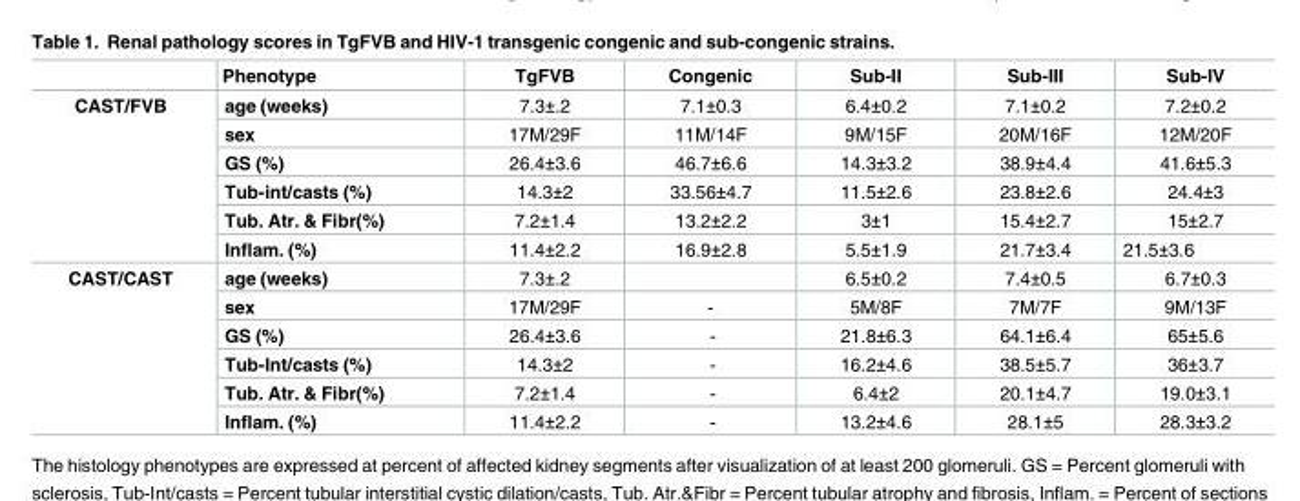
<table><thead><tr><td></td><td>Phenotype</td><td>TgFVB</td><td>Congenic</td><td>Sub-II</td><td>Sub-III</td><td>Sub-IV</td></tr></thead><tbody><tr><td rowspan="6">CAST/FVB</td><td>age (weeks)</td><td>7.3±.2</td><td>7.1±0.3</td><td>6.4±0.2</td><td>7.1±0.2</td><td>7.2±0.2</td></tr><tr><td>sex</td><td>17M/29F</td><td>11M/14F</td><td>9M/15F</td><td>20M/16F</td><td>12M/20F</td></tr><tr><td>GS (%)</td><td>26.4±3.6</td><td>46.7±6.6</td><td>14.3±3.2</td><td>38.9±4.4</td><td>41.6±5.3</td></tr><tr><td>Tub-int/casts (%)</td><td>14.3±2</td><td>33.56±4.7</td><td>11.5±2.6</td><td>23.8±2.6</td><td>24.4±3</td></tr><tr><td>Tub. Atr. &amp; Fibr(%)</td><td>7.2±1.4</td><td>13.2±2.2</td><td>3±1</td><td>15.4±2.7</td><td>15±2.7</td></tr><tr><td>Inflam. (%)</td><td>11.4±2.2</td><td>16.9±2.8</td><td>5.5±1.9</td><td>21.7±3.4</td><td>21.5±3.6</td></tr><tr><td rowspan="6">CAST/CAST</td><td>age (weeks)</td><td>7.3±.2</td><td></td><td>6.5±0.2</td><td>7.4±0.5</td><td>6.7±0.3</td></tr><tr><td>sex</td><td>17M/29F</td><td>-</td><td>5M/8F</td><td>7M/7F</td><td>9M/13F</td></tr><tr><td>GS (%)</td><td>26.4±3.6</td><td>-</td><td>21.8±6.3</td><td>64.1±6.4</td><td>65±5.6</td></tr><tr><td>Tub-Int/casts (%)</td><td>14.3±2</td><td>-</td><td>16.2±4.6</td><td>38.5±5.7</td><td>36±3.7</td></tr><tr><td>Tub. Atr. &amp; Fibr(%)</td><td>7.2±1.4</td><td>-</td><td>6.4±2</td><td>20.1±4.7</td><td>19.0±3.1</td></tr><tr><td>Inflam. (%)</td><td>11.4±2.2</td><td>-</td><td>13.2±4.6</td><td>28.1±5</td><td>28.3±3.2</td></tr></tbody></table>